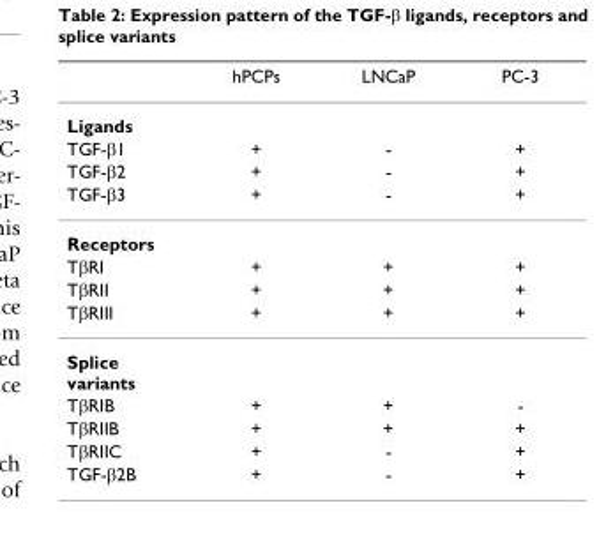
<table><thead><tr><td></td><td>hPCPs</td><td>LNCaP</td><td>PC-3</td></tr></thead><tbody><tr><td colspan="4">Ligands</td></tr><tr><td>TGF-β1</td><td>+</td><td>-</td><td>+</td></tr><tr><td>TGF-β2</td><td>+</td><td>-</td><td>+</td></tr><tr><td>TGF-β3</td><td>+</td><td>-</td><td>+</td></tr><tr><td colspan="4">Receptors</td></tr><tr><td>TβRI</td><td>+</td><td>+</td><td>+</td></tr><tr><td>TβRII</td><td>+</td><td>+</td><td>+</td></tr><tr><td>TβRIII</td><td>+</td><td>+</td><td>+</td></tr><tr><td colspan="4">Splice variants</td></tr><tr><td>TβRIB</td><td>+</td><td>+</td><td>-</td></tr><tr><td>TβRIIB</td><td>+</td><td>+</td><td>+</td></tr><tr><td>TβRIIC</td><td>+</td><td>-</td><td>+</td></tr><tr><td>TGF-β2B</td><td>+</td><td>-</td><td>+</td></tr></tbody></table>